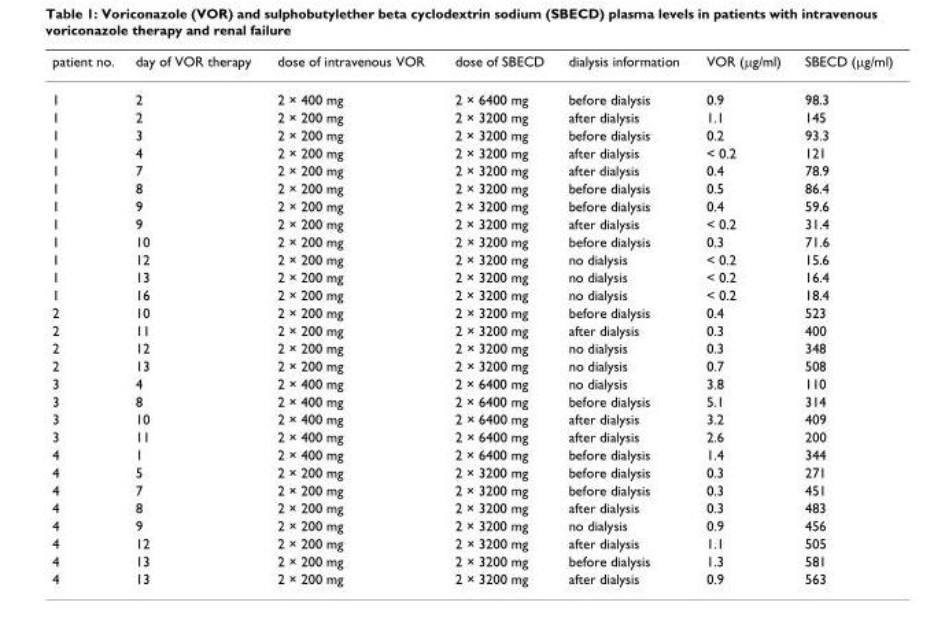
<table><thead><tr><td>patient no.</td><td>day of VOR therapy</td><td>dose of intravenous VOR</td><td>dose of SBECD</td><td>dialysis information</td><td>VOR (µg/ml)</td><td>SBECD (µg/ml)</td></tr></thead><tbody><tr><td>1</td><td>2</td><td>2 × 400 mg</td><td>2 × 6400 mg</td><td>before dialysis</td><td>0.9</td><td>98.3</td></tr><tr><td>1</td><td>2</td><td>2 × 200 mg</td><td>2 × 3200 mg</td><td>after dialysis</td><td>1.1</td><td>145</td></tr><tr><td>1</td><td>3</td><td>2 × 200 mg</td><td>2 × 3200 mg</td><td>before dialysis</td><td>0.2</td><td>93.3</td></tr><tr><td>1</td><td>4</td><td>2 × 200 mg</td><td>2 × 3200 mg</td><td>after dialysis</td><td>&lt; 0.2</td><td>121</td></tr><tr><td>1</td><td>7</td><td>2 × 200 mg</td><td>2 × 3200 mg</td><td>after dialysis</td><td>0.4</td><td>78.9</td></tr><tr><td>1</td><td>8</td><td>2 × 200 mg</td><td>2 × 3200 mg</td><td>before dialysis</td><td>0.5</td><td>86.4</td></tr><tr><td>1</td><td>9</td><td>2 × 200 mg</td><td>2 × 3200 mg</td><td>before dialysis</td><td>0.4</td><td>59.6</td></tr><tr><td>1</td><td>9</td><td>2 × 200 mg</td><td>2 × 3200 mg</td><td>after dialysis</td><td>&lt; 0.2</td><td>31.4</td></tr><tr><td>1</td><td>10</td><td>2 × 200 mg</td><td>2 × 3200 mg</td><td>before dialysis</td><td>0.3</td><td>71.6</td></tr><tr><td>1</td><td>12</td><td>2 × 200 mg</td><td>2 × 3200 mg</td><td>no dialysis</td><td>&lt; 0.2</td><td>15.6</td></tr><tr><td>1</td><td>13</td><td>2 × 200 mg</td><td>2 × 3200 mg</td><td>no dialysis</td><td>&lt; 0.2</td><td>16.4</td></tr><tr><td>1</td><td>16</td><td>2 × 200 mg</td><td>2 × 3200 mg</td><td>no dialysis</td><td>&lt; 0.2</td><td>18.4</td></tr><tr><td>2</td><td>10</td><td>2 × 200 mg</td><td>2 × 3200 mg</td><td>before dialysis</td><td>0.4</td><td>523</td></tr><tr><td>2</td><td>11</td><td>2 × 200 mg</td><td>2 × 3200 mg</td><td>after dialysis</td><td>0.3</td><td>400</td></tr><tr><td>2</td><td>12</td><td>2 × 200 mg</td><td>2 × 3200 mg</td><td>no dialysis</td><td>0.3</td><td>348</td></tr><tr><td>2</td><td>13</td><td>2 × 200 mg</td><td>2 × 3200 mg</td><td>no dialysis</td><td>0.7</td><td>508</td></tr><tr><td>3</td><td>4</td><td>2 × 400 mg</td><td>2 × 6400 mg</td><td>no dialysis</td><td>3.8</td><td>110</td></tr><tr><td>3</td><td>8</td><td>2 × 400 mg</td><td>2 × 6400 mg</td><td>before dialysis</td><td>5.1</td><td>314</td></tr><tr><td>3</td><td>10</td><td>2 × 400 mg</td><td>2 × 6400 mg</td><td>after dialysis</td><td>3.2</td><td>409</td></tr><tr><td>3</td><td>11</td><td>2 × 400 mg</td><td>2 × 6400 mg</td><td>after dialysis</td><td>2.6</td><td>200</td></tr><tr><td>4</td><td>1</td><td>2 × 400 mg</td><td>2 × 6400 mg</td><td>before dialysis</td><td>1.4</td><td>344</td></tr><tr><td>4</td><td>5</td><td>2 × 200 mg</td><td>2 × 3200 mg</td><td>before dialysis</td><td>0.3</td><td>271</td></tr><tr><td>4</td><td>7</td><td>2 × 200 mg</td><td>2 × 3200 mg</td><td>before dialysis</td><td>0.3</td><td>451</td></tr><tr><td>4</td><td>8</td><td>2 × 200 mg</td><td>2 × 3200 mg</td><td>after dialysis</td><td>0.3</td><td>483</td></tr><tr><td>4</td><td>9</td><td>2 × 200 mg</td><td>2 × 3200 mg</td><td>no dialysis</td><td>0.9</td><td>456</td></tr><tr><td>4</td><td>12</td><td>2 × 200 mg</td><td>2 × 3200 mg</td><td>after dialysis</td><td>1.1</td><td>505</td></tr><tr><td>4</td><td>13</td><td>2 × 200 mg</td><td>2 × 3200 mg</td><td>before dialysis</td><td>1.3</td><td>581</td></tr><tr><td>4</td><td>13</td><td>2 × 200 mg</td><td>2 × 3200 mg</td><td>after dialysis</td><td>0.9</td><td>563</td></tr></tbody></table>